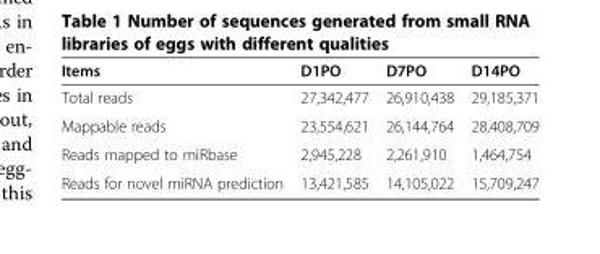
<table><thead><tr><td>Items</td><td>D1PO</td><td>D7PO</td><td>D14PO</td></tr></thead><tbody><tr><td>Total reads</td><td>27,342,477</td><td>26,910,438</td><td>29,185,371</td></tr><tr><td>Mappable reads</td><td>23,554,621</td><td>26,144,764</td><td>28,408,709</td></tr><tr><td>Reads mapped to miRbase</td><td>2,945,228</td><td>2,261,910</td><td>1,464,754</td></tr><tr><td>Reads for novel miRNA prediction</td><td>13,421,585</td><td>14,105,022</td><td>15,709,247</td></tr></tbody></table>